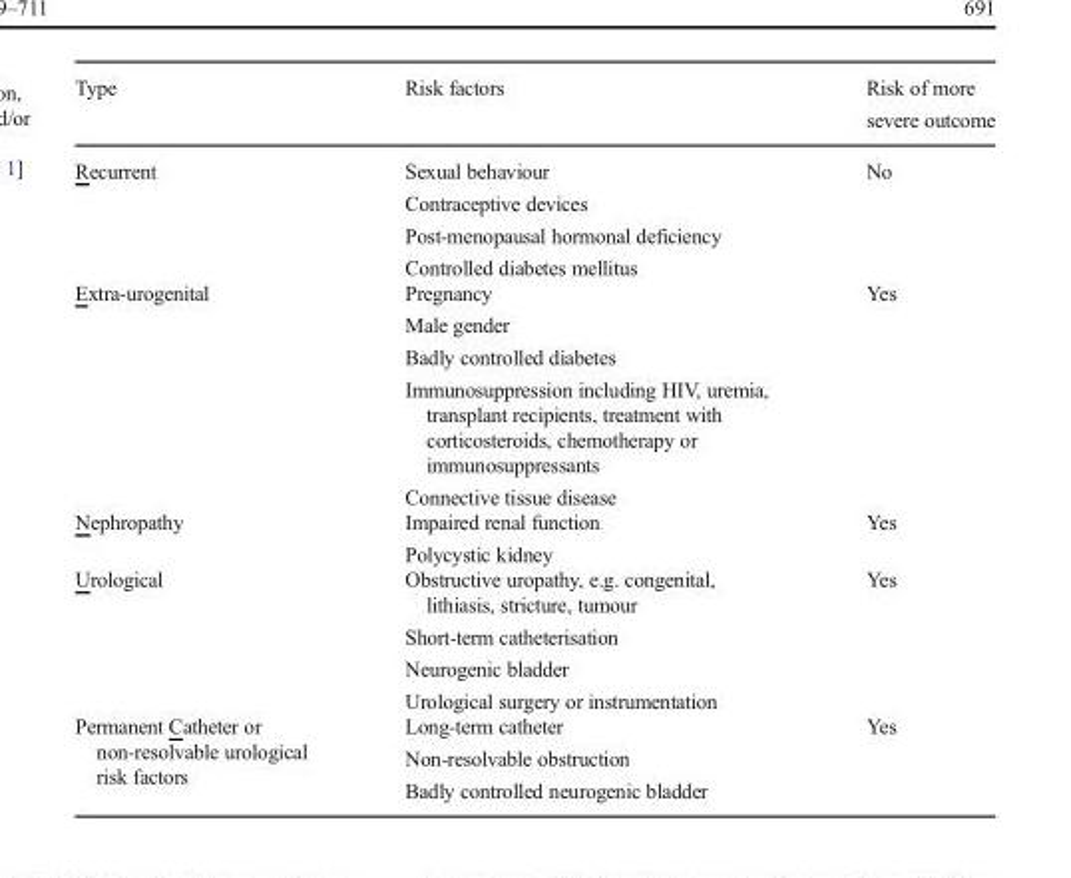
<table><thead><tr><td>Type</td><td>Risk factors</td><td>Risk of more severe outcome</td></tr></thead><tbody><tr><td>Recurrent</td><td>Sexual behaviour Contraceptive devices Post-menopausal hormonal deficiency Controlled diabetes mellitus</td><td>No</td></tr><tr><td>Extra-urogenital</td><td>Pregnancy Male gender Badly controlled diabetes Immunosuppression including HIV, uremia, transplant recipients, treatment with corticosteroids, chemotherapy or immunosuppressants Connective tissue disease</td><td>Yes</td></tr><tr><td>Nephropathy</td><td>Impaired renal function Polycystic kidney</td><td>Yes</td></tr><tr><td>Urological</td><td>Obstructive uropathy, e.g. congenital, lithiasis, stricture, tumour Short-term catheterisation Neurogenic bladder Urological surgery or instrumentation</td><td>Yes</td></tr><tr><td>Permanent Catheter or non-resolvable urological risk factors</td><td>Long-term catheter Non-resolvable obstruction Badly controlled neurogenic bladder</td><td>Yes</td></tr></tbody></table>